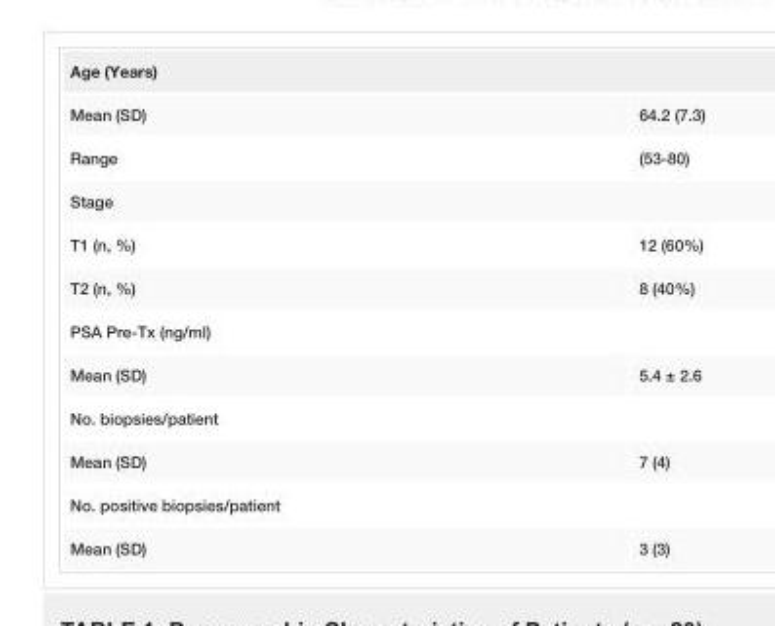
<table><tbody><tr><td colspan="2">Age (Years)</td></tr><tr><td>Mean (SD)</td><td>64.2 (7.3)</td></tr><tr><td>Range</td><td>(53-80)</td></tr><tr><td colspan="2">Stage</td></tr><tr><td>T1 (n, %)</td><td>12 (60%)</td></tr><tr><td>T2 (n, %)</td><td>8 (40%)</td></tr><tr><td colspan="2">PSA Pre-Tx (ng/ml)</td></tr><tr><td>Mean (SD)</td><td>5.4 ± 2.6</td></tr><tr><td colspan="2">No. biopsies/patient</td></tr><tr><td>Mean (SD)</td><td>7 (4)</td></tr><tr><td colspan="2">No. positive biopsies/patient</td></tr><tr><td>Mean (SD)</td><td>3 (3)</td></tr></tbody></table>